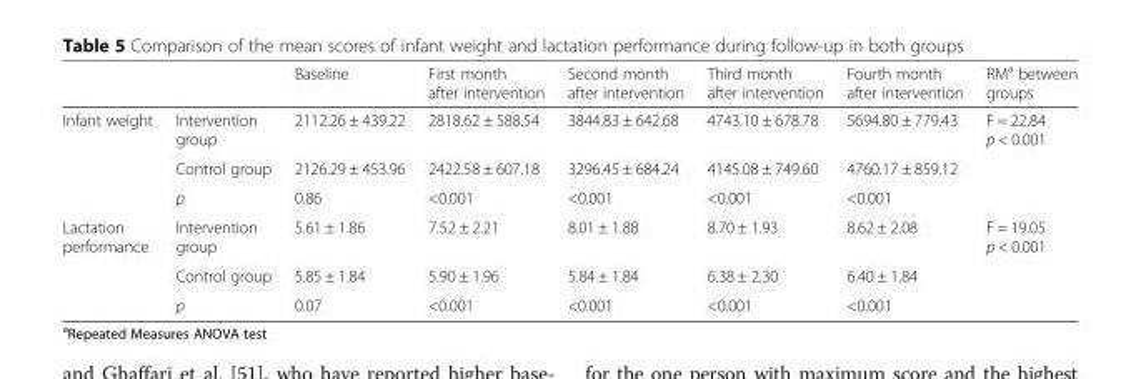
<table><thead><tr><td></td><td></td><td>Baseline</td><td>First month after intervention</td><td>Second month after intervention</td><td>Third month after intervention</td><td>Fourth month after intervention</td><td>RM<sup>a</sup> between groups</td></tr></thead><tbody><tr><td rowspan="3">Infant weight</td><td>Intervention group</td><td>2112.26 ± 439.22</td><td>2818.62 ± 588.54</td><td>3844.83 ± 642.68</td><td>4743.10 ± 678.78</td><td>5694.80 ± 779.43</td><td rowspan="2">F = 22.84 p &lt; 0.001</td></tr><tr><td>Control group</td><td>2126.29 ± 453.96</td><td>2422.58 ± 607.18</td><td>3296.45 ± 684.24</td><td>4145.08 ± 749.60</td><td>4760.17 ± 859.12</td></tr><tr><td>p</td><td>0.86</td><td>&lt;0.001</td><td>&lt;0.001</td><td>&lt;0.001</td><td>&lt;0.001</td><td></td></tr><tr><td rowspan="3">Lactation performance</td><td>Intervention group</td><td>5.61 ± 1.86</td><td>7.52 ± 2.21</td><td>8.01 ± 1.88</td><td>8.70 ± 1.93</td><td>8.62 ± 2.08</td><td rowspan="2">F = 19.05 p &lt; 0.001</td></tr><tr><td>Control group</td><td>5.85 ± 1.84</td><td>5.90 ± 1.96</td><td>5.84 ± 1.84</td><td>6.38 ± 2.30</td><td>6.40 ± 1.84</td></tr><tr><td>p</td><td>0.07</td><td>&lt;0.001</td><td>&lt;0.001</td><td>&lt;0.001</td><td>&lt;0.001</td><td></td></tr></tbody></table>